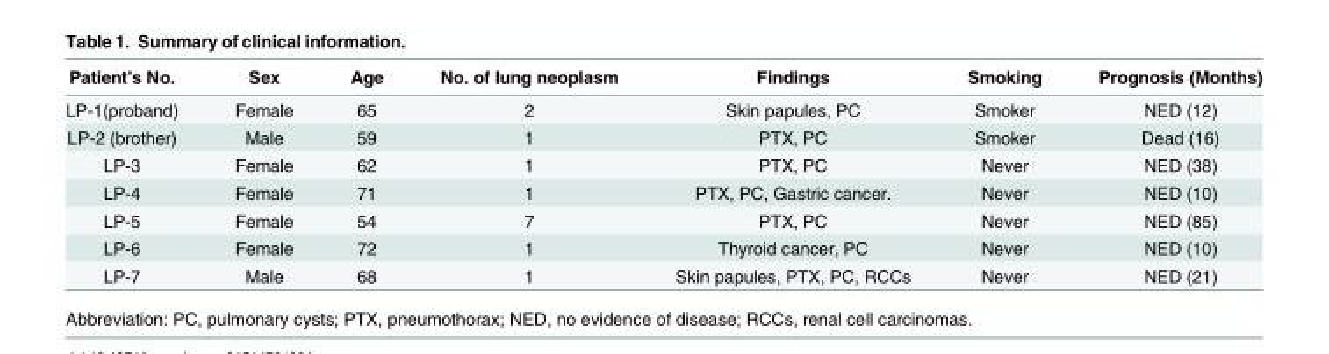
<table><thead><tr><td>Patient’s No.</td><td>Sex</td><td>Age</td><td>No. of lung neoplasm</td><td>Findings</td><td>Smoking</td><td>Prognosis (Months)</td></tr></thead><tbody><tr><td>LP-1(proband)</td><td>Female</td><td>65</td><td>2</td><td>Skin papules, PC</td><td>Smoker</td><td>NED (12)</td></tr><tr><td>LP-2 (brother)</td><td>Male</td><td>59</td><td>1</td><td>PTX, PC</td><td>Smoker</td><td>Dead (16)</td></tr><tr><td>LP-3</td><td>Female</td><td>62</td><td>1</td><td>PTX, PC</td><td>Never</td><td>NED (38)</td></tr><tr><td>LP-4</td><td>Female</td><td>71</td><td>1</td><td>PTX, PC, Gastric cancer.</td><td>Never</td><td>NED (10)</td></tr><tr><td>LP-5</td><td>Female</td><td>54</td><td>7</td><td>PTX, PC</td><td>Never</td><td>NED (85)</td></tr><tr><td>LP-6</td><td>Female</td><td>72</td><td>1</td><td>Thyroid cancer, PC</td><td>Never</td><td>NED (10)</td></tr><tr><td>LP-7</td><td>Male</td><td>68</td><td>1</td><td>Skin papules, PTX, PC, RCCs</td><td>Never</td><td>NED (21)</td></tr></tbody></table>